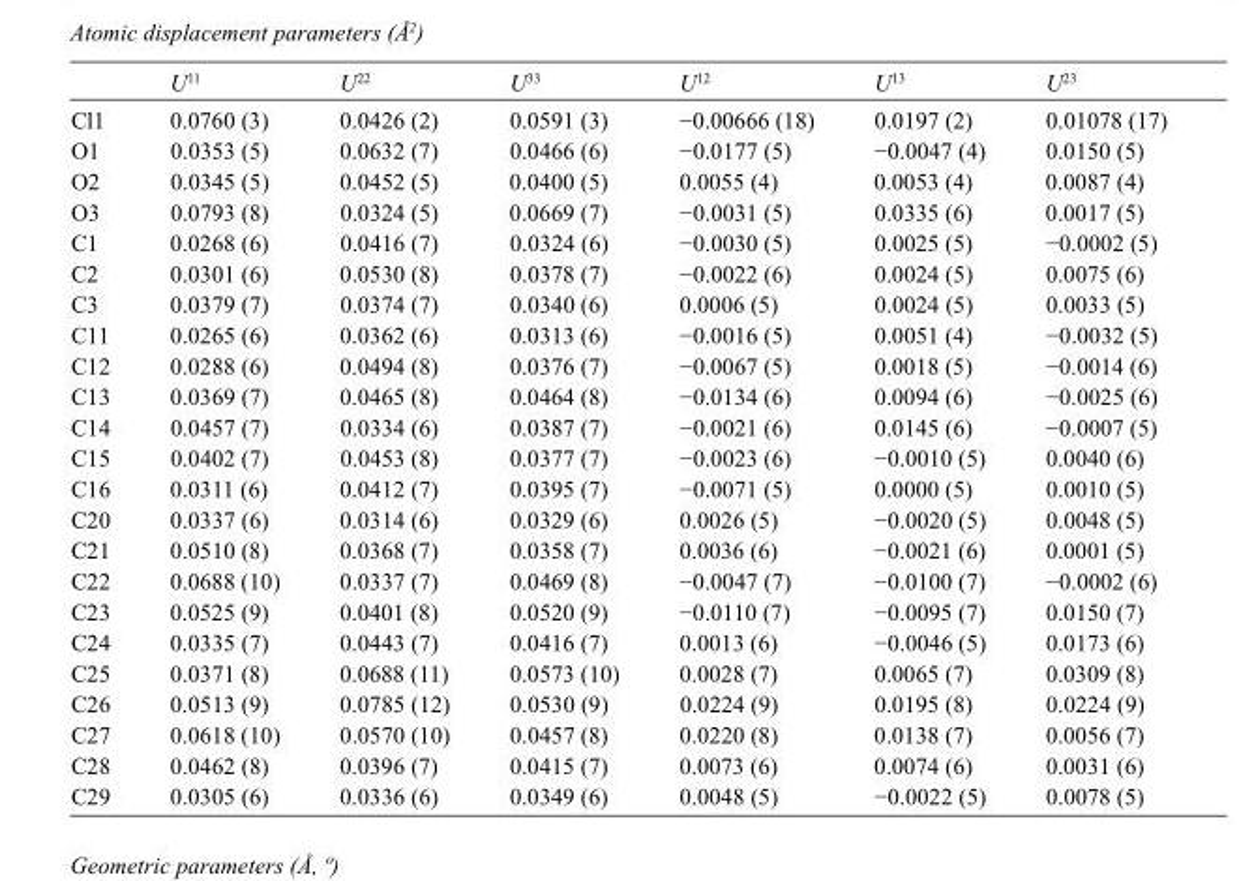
<table><thead><tr><td></td><td>U<sup>11</sup></td><td>U<sup>22</sup></td><td>U<sup>33</sup></td><td>U<sup>12</sup></td><td>U<sup>13</sup></td><td>U<sup>23</sup></td></tr></thead><tbody><tr><td>Cl1</td><td>0.0760 (3)</td><td>0.0426 (2)</td><td>0.0591 (3)</td><td>−0.00666 (18)</td><td>0.0197 (2)</td><td>0.01078 (17)</td></tr><tr><td>O1</td><td>0.0353 (5)</td><td>0.0632 (7)</td><td>0.0466 (6)</td><td>−0.0177 (5)</td><td>−0.0047 (4)</td><td>0.0150 (5)</td></tr><tr><td>O2</td><td>0.0345 (5)</td><td>0.0452 (5)</td><td>0.0400 (5)</td><td>0.0055 (4)</td><td>0.0053 (4)</td><td>0.0087 (4)</td></tr><tr><td>O3</td><td>0.0793 (8)</td><td>0.0324 (5)</td><td>0.0669 (7)</td><td>−0.0031 (5)</td><td>0.0335 (6)</td><td>0.0017 (5)</td></tr><tr><td>C1</td><td>0.0268 (6)</td><td>0.0416 (7)</td><td>0.0324 (6)</td><td>−0.0030 (5)</td><td>0.0025 (5)</td><td>−0.0002 (5)</td></tr><tr><td>C2</td><td>0.0301 (6)</td><td>0.0530 (8)</td><td>0.0378 (7)</td><td>−0.0022 (6)</td><td>0.0024 (5)</td><td>0.0075 (6)</td></tr><tr><td>C3</td><td>0.0379 (7)</td><td>0.0374 (7)</td><td>0.0340 (6)</td><td>0.0006 (5)</td><td>0.0024 (5)</td><td>0.0033 (5)</td></tr><tr><td>C11</td><td>0.0265 (6)</td><td>0.0362 (6)</td><td>0.0313 (6)</td><td>−0.0016 (5)</td><td>0.0051 (4)</td><td>−0.0032 (5)</td></tr><tr><td>C12</td><td>0.0288 (6)</td><td>0.0494 (8)</td><td>0.0376 (7)</td><td>−0.0067 (5)</td><td>0.0018 (5)</td><td>−0.0014 (6)</td></tr><tr><td>C13</td><td>0.0369 (7)</td><td>0.0465 (8)</td><td>0.0464 (8)</td><td>−0.0134 (6)</td><td>0.0094 (6)</td><td>−0.0025 (6)</td></tr><tr><td>C14</td><td>0.0457 (7)</td><td>0.0334 (6)</td><td>0.0387 (7)</td><td>−0.0021 (6)</td><td>0.0145 (6)</td><td>−0.0007 (5)</td></tr><tr><td>C15</td><td>0.0402 (7)</td><td>0.0453 (8)</td><td>0.0377 (7)</td><td>−0.0023 (6)</td><td>−0.0010 (5)</td><td>0.0040 (6)</td></tr><tr><td>C16</td><td>0.0311 (6)</td><td>0.0412 (7)</td><td>0.0395 (7)</td><td>−0.0071 (5)</td><td>0.0000 (5)</td><td>0.0010 (5)</td></tr><tr><td>C20</td><td>0.0337 (6)</td><td>0.0314 (6)</td><td>0.0329 (6)</td><td>0.0026 (5)</td><td>−0.0020 (5)</td><td>0.0048 (5)</td></tr><tr><td>C21</td><td>0.0510 (8)</td><td>0.0368 (7)</td><td>0.0358 (7)</td><td>0.0036 (6)</td><td>−0.0021 (6)</td><td>0.0001 (5)</td></tr><tr><td>C22</td><td>0.0688 (10)</td><td>0.0337 (7)</td><td>0.0469 (8)</td><td>−0.0047 (7)</td><td>−0.0100 (7)</td><td>−0.0002 (6)</td></tr><tr><td>C23</td><td>0.0525 (9)</td><td>0.0401 (8)</td><td>0.0520 (9)</td><td>−0.0110 (7)</td><td>−0.0095 (7)</td><td>0.0150 (7)</td></tr><tr><td>C24</td><td>0.0335 (7)</td><td>0.0443 (7)</td><td>0.0416 (7)</td><td>0.0013 (6)</td><td>−0.0046 (5)</td><td>0.0173 (6)</td></tr><tr><td>C25</td><td>0.0371 (8)</td><td>0.0688 (11)</td><td>0.0573 (10)</td><td>0.0028 (7)</td><td>0.0065 (7)</td><td>0.0309 (8)</td></tr><tr><td>C26</td><td>0.0513 (9)</td><td>0.0785 (12)</td><td>0.0530 (9)</td><td>0.0224 (9)</td><td>0.0195 (8)</td><td>0.0224 (9)</td></tr><tr><td>C27</td><td>0.0618 (10)</td><td>0.0570 (10)</td><td>0.0457 (8)</td><td>0.0220 (8)</td><td>0.0138 (7)</td><td>0.0056 (7)</td></tr><tr><td>C28</td><td>0.0462 (8)</td><td>0.0396 (7)</td><td>0.0415 (7)</td><td>0.0073 (6)</td><td>0.0074 (6)</td><td>0.0031 (6)</td></tr><tr><td>C29</td><td>0.0305 (6)</td><td>0.0336 (6)</td><td>0.0349 (6)</td><td>0.0048 (5)</td><td>−0.0022 (5)</td><td>0.0078 (5)</td></tr></tbody></table>